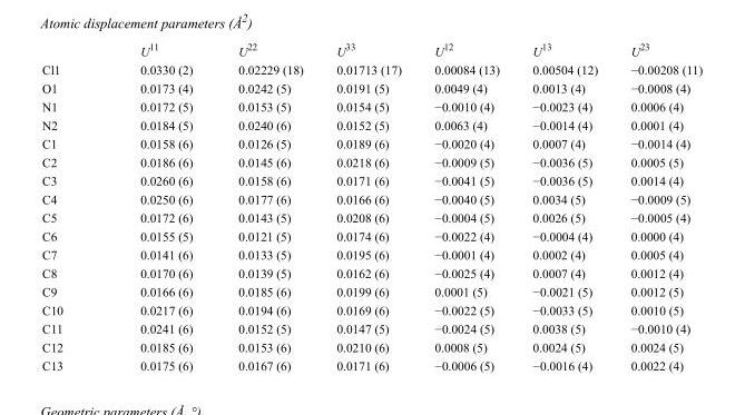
<table><thead><tr><td></td><td>U<sup>11</sup></td><td>U<sup>22</sup></td><td>U<sup>33</sup></td><td>U<sup>12</sup></td><td>U<sup>13</sup></td><td>U<sup>23</sup></td></tr></thead><tbody><tr><td>Cl1</td><td>0.0330 (2)</td><td>0.02229 (18)</td><td>0.01713 (17)</td><td>0.00084 (13)</td><td>0.00504 (12)</td><td>−0.00208 (11)</td></tr><tr><td>O1</td><td>0.0173 (4)</td><td>0.0242 (5)</td><td>0.0191 (5)</td><td>0.0049 (4)</td><td>0.0013 (4)</td><td>−0.0008 (4)</td></tr><tr><td>N1</td><td>0.0172 (5)</td><td>0.0153 (5)</td><td>0.0154 (5)</td><td>−0.0010 (4)</td><td>−0.0023 (4)</td><td>0.0006 (4)</td></tr><tr><td>N2</td><td>0.0184 (5)</td><td>0.0240 (6)</td><td>0.0152 (5)</td><td>0.0063 (4)</td><td>−0.0014 (4)</td><td>0.0001 (4)</td></tr><tr><td>C1</td><td>0.0158 (6)</td><td>0.0126 (5)</td><td>0.0189 (6)</td><td>−0.0020 (4)</td><td>0.0007 (4)</td><td>−0.0014 (4)</td></tr><tr><td>C2</td><td>0.0186 (6)</td><td>0.0145 (6)</td><td>0.0218 (6)</td><td>−0.0009 (5)</td><td>−0.0036 (5)</td><td>0.0005 (5)</td></tr><tr><td>C3</td><td>0.0260 (6)</td><td>0.0158 (6)</td><td>0.0171 (6)</td><td>−0.0041 (5)</td><td>−0.0036 (5)</td><td>0.0014 (4)</td></tr><tr><td>C4</td><td>0.0250 (6)</td><td>0.0177 (6)</td><td>0.0166 (6)</td><td>−0.0040 (5)</td><td>0.0034 (5)</td><td>−0.0009 (5)</td></tr><tr><td>C5</td><td>0.0172 (6)</td><td>0.0143 (5)</td><td>0.0208 (6)</td><td>−0.0004 (5)</td><td>0.0026 (5)</td><td>−0.0005 (4)</td></tr><tr><td>C6</td><td>0.0155 (5)</td><td>0.0121 (5)</td><td>0.0174 (6)</td><td>−0.0022 (4)</td><td>−0.0004 (4)</td><td>0.0000 (4)</td></tr><tr><td>C7</td><td>0.0141 (6)</td><td>0.0133 (5)</td><td>0.0195 (6)</td><td>−0.0001 (4)</td><td>0.0002 (4)</td><td>0.0005 (4)</td></tr><tr><td>C8</td><td>0.0170 (6)</td><td>0.0139 (5)</td><td>0.0162 (6)</td><td>−0.0025 (4)</td><td>0.0007 (4)</td><td>0.0012 (4)</td></tr><tr><td>C9</td><td>0.0166 (6)</td><td>0.0185 (6)</td><td>0.0199 (6)</td><td>0.0001 (5)</td><td>−0.0021 (5)</td><td>0.0012 (5)</td></tr><tr><td>C10</td><td>0.0217 (6)</td><td>0.0194 (6)</td><td>0.0169 (6)</td><td>−0.0022 (5)</td><td>−0.0033 (5)</td><td>0.0010 (5)</td></tr><tr><td>C11</td><td>0.0241 (6)</td><td>0.0152 (5)</td><td>0.0147 (5)</td><td>−0.0024 (5)</td><td>0.0038 (5)</td><td>−0.0010 (4)</td></tr><tr><td>C12</td><td>0.0185 (6)</td><td>0.0153 (6)</td><td>0.0210 (6)</td><td>0.0008 (5)</td><td>0.0024 (5)</td><td>0.0024 (5)</td></tr><tr><td>C13</td><td>0.0175 (6)</td><td>0.0167 (6)</td><td>0.0171 (6)</td><td>−0.0006 (5)</td><td>−0.0016 (4)</td><td>0.0022 (4)</td></tr></tbody></table>